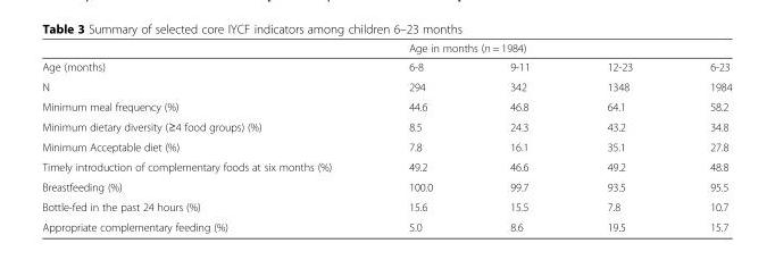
<table><thead><tr><td rowspan="2">Age (months)</td><td colspan="4">Age in months (n = 1984)</td></tr><tr><td>6-8</td><td>9-11</td><td>12-23</td><td>6-23</td></tr></thead><tbody><tr><td>N</td><td>294</td><td>342</td><td>1348</td><td>1984</td></tr><tr><td>Minimum meal frequency (%)</td><td>44.6</td><td>46.8</td><td>64.1</td><td>58.2</td></tr><tr><td>Minimum dietary diversity (≥4 food groups) (%)</td><td>8.5</td><td>24.3</td><td>43.2</td><td>34.8</td></tr><tr><td>Minimum Acceptable diet (%)</td><td>7.8</td><td>16.1</td><td>35.1</td><td>27.8</td></tr><tr><td>Timely introduction of complementary foods at six months (%)</td><td>49.2</td><td>46.6</td><td>49.2</td><td>48.8</td></tr><tr><td>Breastfeeding (%)</td><td>100.0</td><td>99.7</td><td>93.5</td><td>95.5</td></tr><tr><td>Bottle-fed in the past 24 hours (%)</td><td>15.6</td><td>15.5</td><td>7.8</td><td>10.7</td></tr><tr><td>Appropriate complementary feeding (%)</td><td>5.0</td><td>8.6</td><td>19.5</td><td>15.7</td></tr></tbody></table>